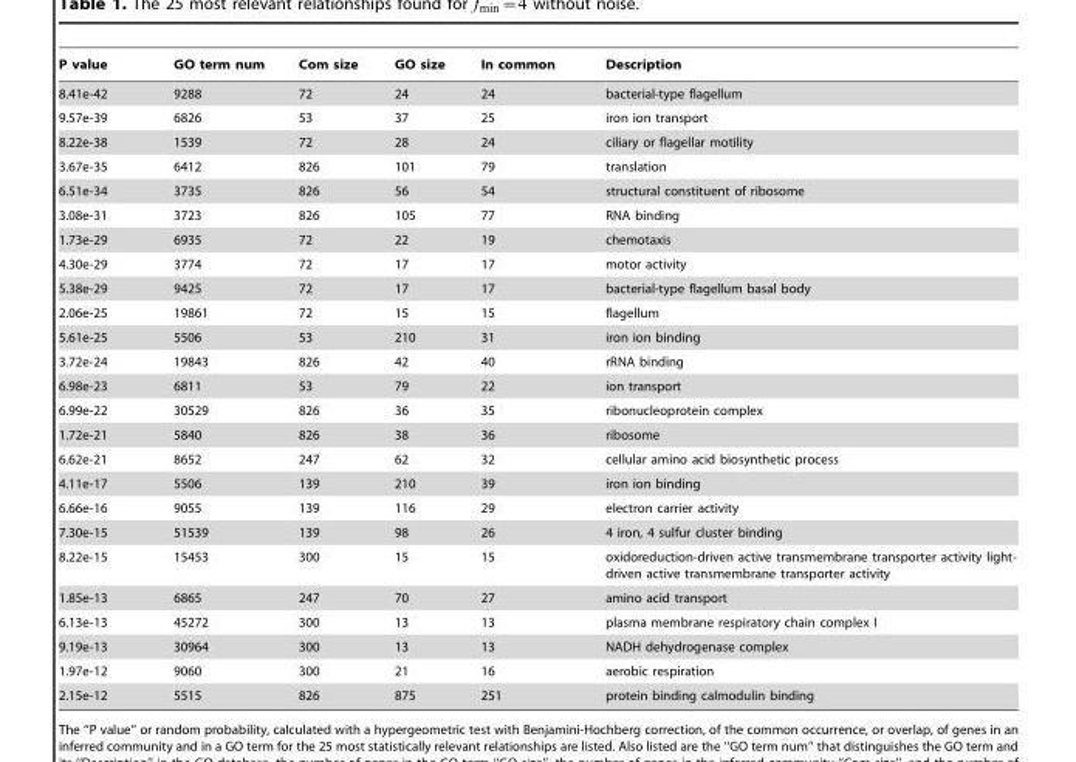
<table><thead><tr><td>P value</td><td>GO term num</td><td>Com size</td><td>GO size</td><td>In common</td><td>Description</td></tr></thead><tbody><tr><td>8.41e-42</td><td>9288</td><td>72</td><td>24</td><td>24</td><td>bacterial-type flagellum</td></tr><tr><td>9.57e-39</td><td>6826</td><td>53</td><td>37</td><td>25</td><td>iron ion transport</td></tr><tr><td>8.22e-38</td><td>1539</td><td>72</td><td>28</td><td>24</td><td>ciliary or flagellar motility</td></tr><tr><td>3.67e-35</td><td>6412</td><td>826</td><td>101</td><td>79</td><td>translation</td></tr><tr><td>6.51e-34</td><td>3735</td><td>826</td><td>56</td><td>54</td><td>structural constituent of ribosome</td></tr><tr><td>3.08e-31</td><td>3723</td><td>826</td><td>105</td><td>77</td><td>RNA binding</td></tr><tr><td>1.73e-29</td><td>6935</td><td>72</td><td>22</td><td>19</td><td>chemotaxis</td></tr><tr><td>4.30e-29</td><td>3774</td><td>72</td><td>17</td><td>17</td><td>motor activity</td></tr><tr><td>5.38e-29</td><td>9425</td><td>72</td><td>17</td><td>17</td><td>bacterial-type flagellum basal body</td></tr><tr><td>2.06e-25</td><td>19861</td><td>72</td><td>15</td><td>15</td><td>flagellum</td></tr><tr><td>5.61e-25</td><td>5506</td><td>53</td><td>210</td><td>31</td><td>iron ion binding</td></tr><tr><td>3.72e-24</td><td>19843</td><td>826</td><td>42</td><td>40</td><td>rRNA binding</td></tr><tr><td>6.98e-23</td><td>6811</td><td>53</td><td>79</td><td>22</td><td>ion transport</td></tr><tr><td>6.99e-22</td><td>30529</td><td>826</td><td>36</td><td>35</td><td>ribonucleoprotein complex</td></tr><tr><td>1.72e-21</td><td>5840</td><td>826</td><td>38</td><td>36</td><td>ribosome</td></tr><tr><td>6.62e-21</td><td>8652</td><td>247</td><td>62</td><td>32</td><td>cellular amino acid biosynthetic process</td></tr><tr><td>4.11e-17</td><td>5506</td><td>139</td><td>210</td><td>39</td><td>iron ion binding</td></tr><tr><td>6.66e-16</td><td>9055</td><td>139</td><td>116</td><td>29</td><td>electron carrier activity</td></tr><tr><td>7.30e-15</td><td>51539</td><td>139</td><td>98</td><td>26</td><td>4 iron, 4 sulfur cluster binding</td></tr><tr><td>8.22e-15</td><td>15453</td><td>300</td><td>15</td><td>15</td><td>oxidoreduction-driven active transmembrane transporter activity light- driven active transmembrane transporter activity</td></tr><tr><td>1.85e-13</td><td>6865</td><td>247</td><td>70</td><td>27</td><td>amino acid transport</td></tr><tr><td>6.13e-13</td><td>45272</td><td>300</td><td>13</td><td>13</td><td>plasma membrane respiratory chain complex I</td></tr><tr><td>9.19e-13</td><td>30964</td><td>300</td><td>13</td><td>13</td><td>NADH dehydrogenase complex</td></tr><tr><td>1.97e-12</td><td>9060</td><td>300</td><td>21</td><td>16</td><td>aerobic respiration</td></tr><tr><td>2.15e-12</td><td>5515</td><td>826</td><td>875</td><td>251</td><td>protein binding calmodulin binding</td></tr></tbody></table>